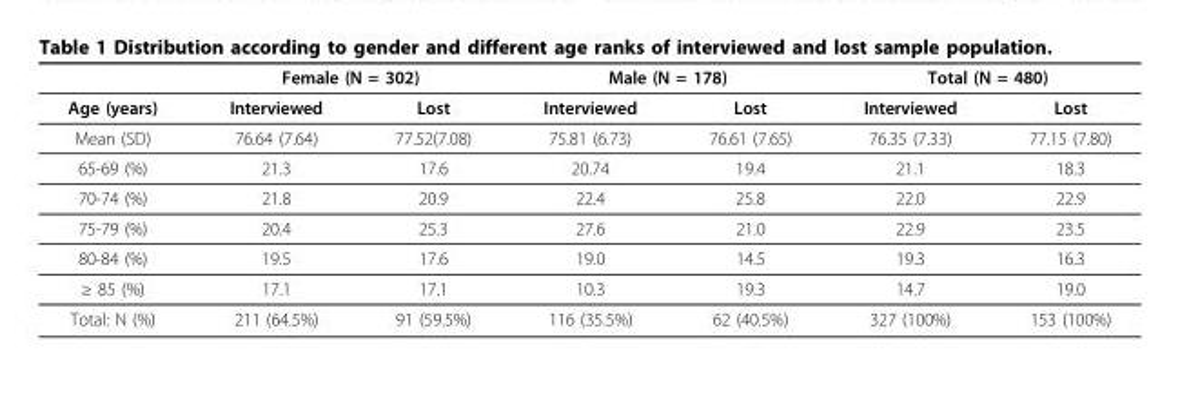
<table><thead><tr><td rowspan="2">Age (years)</td><td colspan="2">Female (N = 302)</td><td colspan="2">Male (N = 178)</td><td colspan="2">Total (N = 480)</td></tr><tr><td>Interviewed</td><td>Lost</td><td>Interviewed</td><td>Lost</td><td>Interviewed</td><td>Lost</td></tr></thead><tbody><tr><td>Mean (SD)</td><td>76.64 (7.64)</td><td>77.52(7.08)</td><td>75.81 (6.73)</td><td>76.61 (7.65)</td><td>76.35 (7.33)</td><td>77.15 (7.80)</td></tr><tr><td>65-69 (%)</td><td>21.3</td><td>17.6</td><td>20.74</td><td>19.4</td><td>21.1</td><td>18.3</td></tr><tr><td>70-74 (%)</td><td>21.8</td><td>20.9</td><td>22.4</td><td>25.8</td><td>22.0</td><td>22.9</td></tr><tr><td>75-79 (%)</td><td>20.4</td><td>25.3</td><td>27.6</td><td>21.0</td><td>22.9</td><td>23.5</td></tr><tr><td>80-84 (%)</td><td>19.5</td><td>17.6</td><td>19.0</td><td>14.5</td><td>19.3</td><td>16.3</td></tr><tr><td>≥ 85 (%)</td><td>17.1</td><td>17.1</td><td>10.3</td><td>19.3</td><td>14.7</td><td>19.0</td></tr><tr><td>Total: N (%)</td><td>211 (64.5%)</td><td>91 (59.5%)</td><td>116 (35.5%)</td><td>62 (40.5%)</td><td>327 (100%)</td><td>153 (100%)</td></tr></tbody></table>